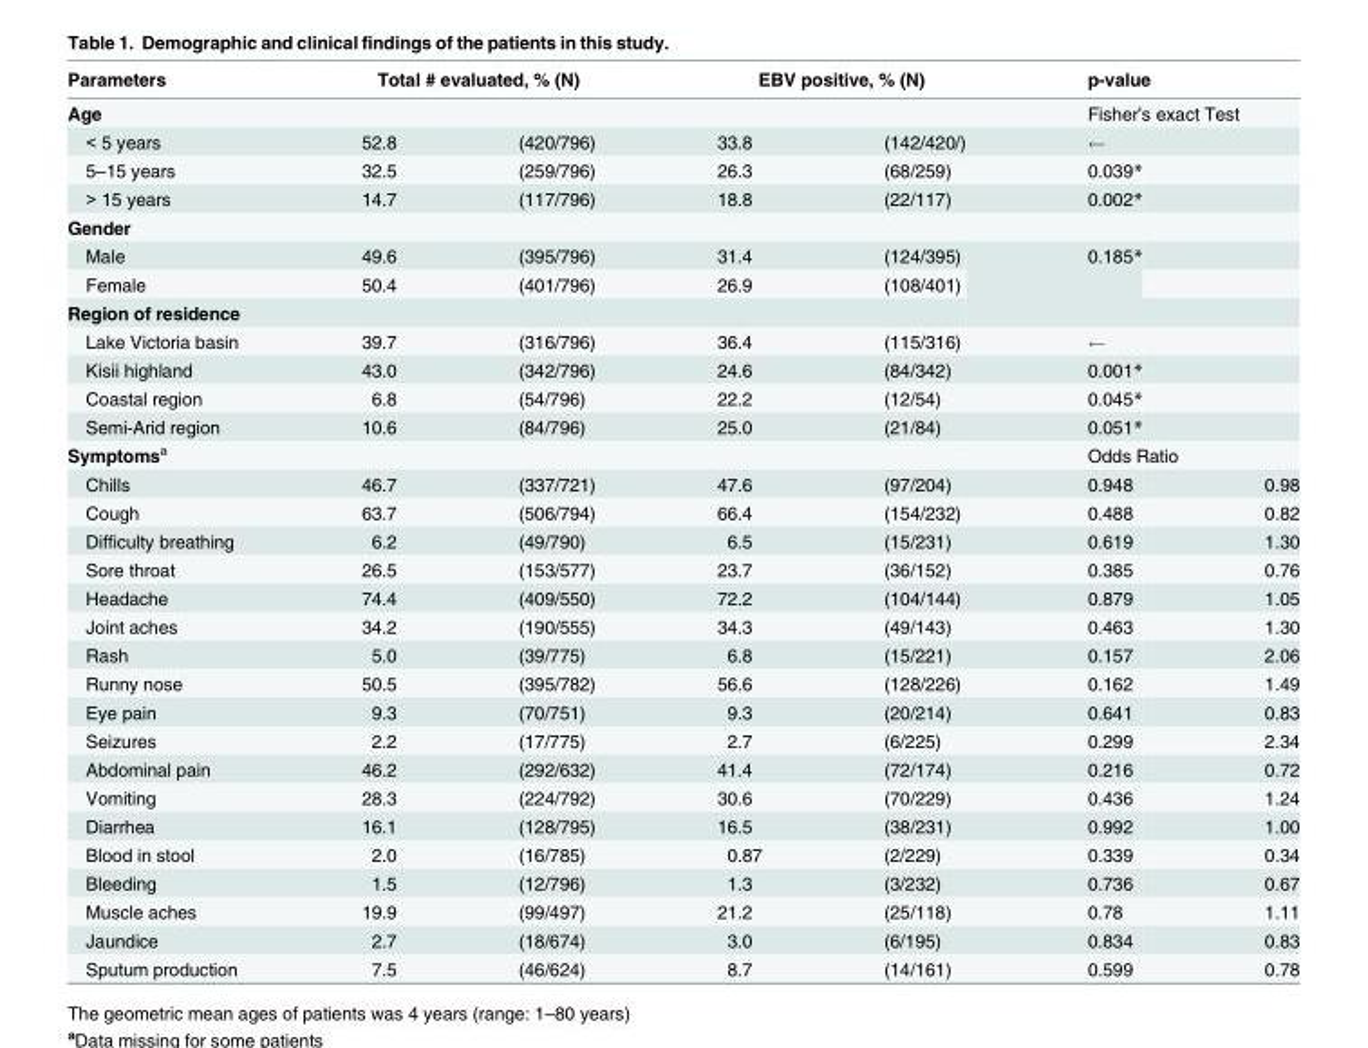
<table><thead><tr><td rowspan="4">Parameters Age &lt; 5 years 5–15 years</td><td rowspan="2" colspan="2">Total # evaluated, % (N)</td><td rowspan="2" colspan="2">EBV positive, % (N)</td><td rowspan="3" colspan="2">p-value Fisher’s exact Test</td></tr><tr></tr><tr><td rowspan="2">52.8 32.5</td><td rowspan="2">(420/796) (259/796)</td><td rowspan="2">33.8 26.3</td><td rowspan="2">(142/420/) (68/259)</td></tr><tr><td>0.039*</td><td></td></tr></thead><tbody><tr><td>&gt; 15 years</td><td>14.7</td><td>(117/796)</td><td>18.8</td><td>(22/117)</td><td>0.002*</td><td></td></tr><tr><td colspan="7">Gender</td></tr><tr><td>Male</td><td>49.6</td><td>(395/796)</td><td>31.4</td><td>(124/395)</td><td rowspan="2">0.185*</td><td></td></tr><tr><td>Female</td><td>50.4</td><td>(401/796)</td><td>26.9</td><td>(108/401)</td><td></td></tr><tr><td colspan="7">Region of residence</td></tr><tr><td>Lake Victoria basin</td><td>39.7</td><td>(316/796)</td><td>36.4</td><td>(115/316)</td><td></td><td></td></tr><tr><td>Kisii highland</td><td>43.0</td><td>(342/796)</td><td>24.6</td><td>(84/342)</td><td>0.001*</td><td></td></tr><tr><td>Coastal region</td><td>6.8</td><td>(54/796)</td><td>22.2</td><td>(12/54)</td><td>0.045*</td><td></td></tr><tr><td>Semi-Arid region</td><td>10.6</td><td>(84/796)</td><td>25.0</td><td>(21/84)</td><td>0.051*</td><td></td></tr><tr><td>Symptoms<sup>a</sup></td><td></td><td></td><td></td><td></td><td colspan="2">Odds Ratio</td></tr><tr><td>Chills</td><td>46.7</td><td>(337/721)</td><td>47.6</td><td>(97/204)</td><td>0.948</td><td>0.98</td></tr><tr><td>Cough</td><td>63.7</td><td>(506/794)</td><td>66.4</td><td>(154/232)</td><td>0.488</td><td>0.82</td></tr><tr><td>Difficulty breathing</td><td>6.2</td><td>(49/790)</td><td>6.5</td><td>(15/231)</td><td>0.619</td><td>1.30</td></tr><tr><td>Sore throat</td><td>26.5</td><td>(153/577)</td><td>23.7</td><td>(36/152)</td><td>0.385</td><td>0.76</td></tr><tr><td>Headache</td><td>74.4</td><td>(409/550)</td><td>72.2</td><td>(104/144)</td><td>0.879</td><td>1.05</td></tr><tr><td>Joint aches</td><td>34.2</td><td>(190/555)</td><td>34.3</td><td>(49/143)</td><td>0.463</td><td>1.30</td></tr><tr><td>Rash</td><td>5.0</td><td>(39/775)</td><td>6.8</td><td>(15/221)</td><td>0.157</td><td>2.06</td></tr><tr><td>Runny nose</td><td>50.5</td><td>(395/782)</td><td>56.6</td><td>(128/226)</td><td>0.162</td><td>1.49</td></tr><tr><td>Eye pain</td><td>9.3</td><td>(70/751)</td><td>9.3</td><td>(20/214)</td><td>0.641</td><td>0.83</td></tr><tr><td>Seizures</td><td>2.2</td><td>(17/775)</td><td>2.7</td><td>(6/225)</td><td>0.299</td><td>2.34</td></tr><tr><td>Abdominal pain</td><td>46.2</td><td>(292/632)</td><td>41.4</td><td>(72/174)</td><td>0.216</td><td>0.72</td></tr><tr><td>Vomiting</td><td>28.3</td><td>(224/792)</td><td>30.6</td><td>(70/229)</td><td>0.436</td><td>1.24</td></tr><tr><td>Diarrhea</td><td>16.1</td><td>(128/795)</td><td>16.5</td><td>(38/231)</td><td>0.992</td><td>1.00</td></tr><tr><td>Blood in stool</td><td>2.0</td><td>(16/785)</td><td>0.87</td><td>(2/229)</td><td>0.339</td><td>0.34</td></tr><tr><td>Bleeding</td><td>1.5</td><td>(12/796)</td><td>1.3</td><td>(3/232)</td><td>0.736</td><td>0.67</td></tr><tr><td>Muscle aches</td><td>19.9</td><td>(99/497)</td><td>21.2</td><td>(25/118)</td><td>0.78</td><td>1.11</td></tr><tr><td>Jaundice</td><td>2.7</td><td>(18/674)</td><td>3.0</td><td>(6/195)</td><td>0.834</td><td>0.83</td></tr><tr><td>Sputum production</td><td>7.5</td><td>(46/624)</td><td>8.7</td><td>(14/161)</td><td>0.599</td><td>0.78</td></tr></tbody></table>